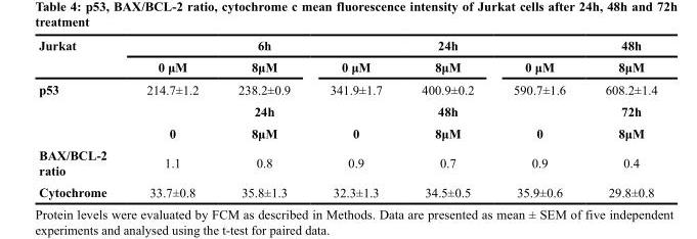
<table><thead><tr><td rowspan="2">Jurkat</td><td rowspan="2">0 μM</td><td rowspan="2">6h 8μM</td><td rowspan="2">0 μM</td><td rowspan="2">24h 8μM</td><td rowspan="2">0 μM</td><td rowspan="2">48h 8μM</td></tr><tr></tr></thead><tbody><tr><td rowspan="3">p53</td><td>214.7±1.2</td><td>238.2±0.9</td><td>341.9±1.7</td><td>400.9±0.2</td><td>590.7±1.6</td><td>608.2±1.4</td></tr><tr><td></td><td>24h</td><td></td><td>48h</td><td></td><td>72h</td></tr><tr><td>0</td><td>8μM</td><td>0</td><td>8μM</td><td>0</td><td>8μM</td></tr><tr><td>BAX/BCL-2 ratio</td><td>1.1</td><td>0.8</td><td>0.9</td><td>0.7</td><td>0.9</td><td>0.4</td></tr><tr><td>Cytochrome</td><td>33.7±0.8</td><td>35.8±1.3</td><td>32.3±1.3</td><td>34.5±0.5</td><td>35.9±0.6</td><td>29.8±0.8</td></tr></tbody></table>